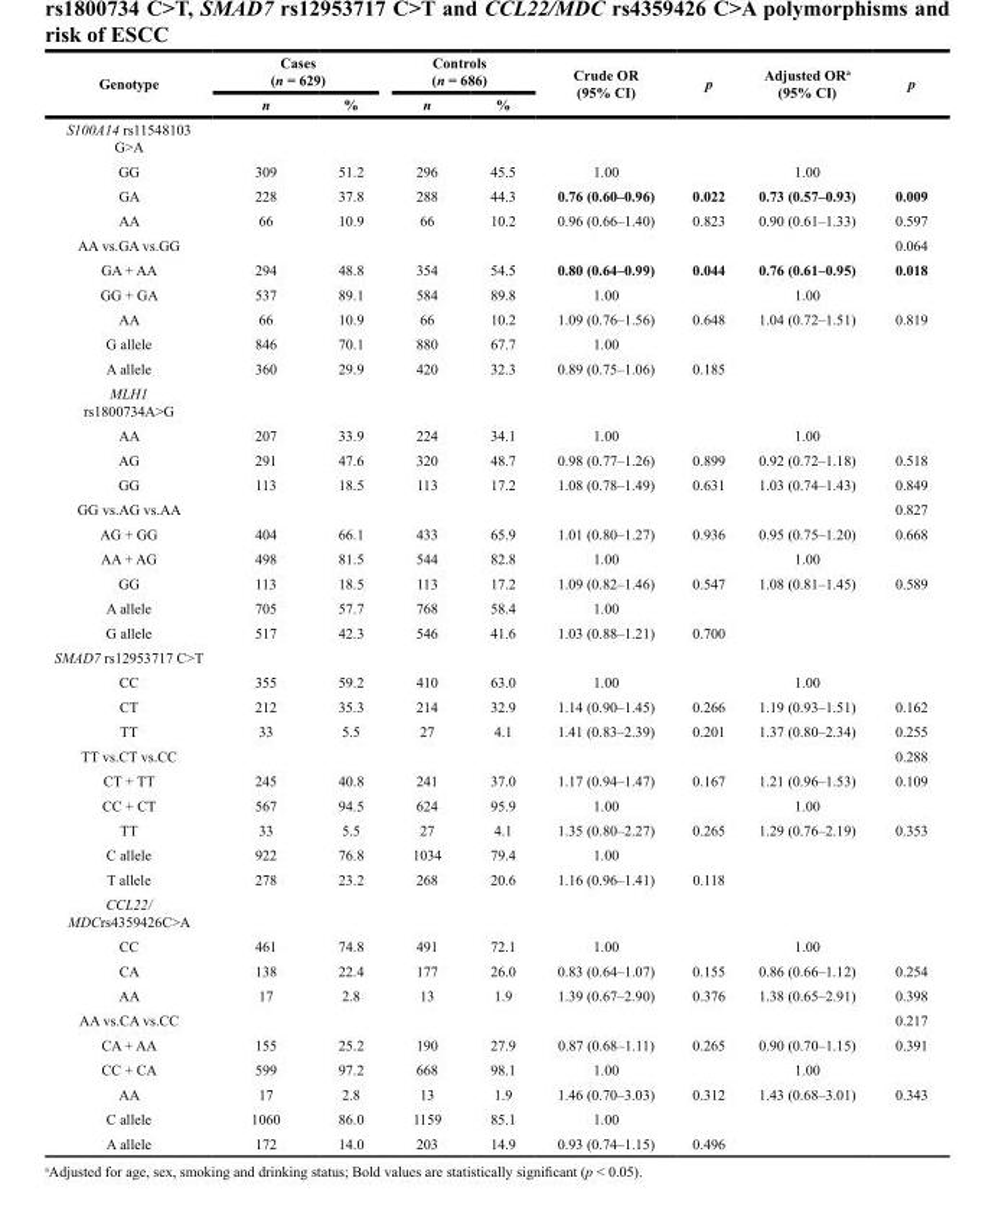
<table><thead><tr><td rowspan="2">Genotype</td><td colspan="2">Cases (n = 629)</td><td colspan="2">Controls (n = 686)</td><td rowspan="2">Crude OR (95% CI)</td><td rowspan="2">p</td><td rowspan="2">Adjusted OR<sup>a</sup> (95% CI)</td><td rowspan="2">p</td></tr><tr><td>n</td><td>%</td><td>n</td><td>%</td></tr></thead><tbody><tr><td colspan="9">S100A14 rs11548103 G&gt;A</td></tr><tr><td>GG</td><td>309</td><td>51.2</td><td>296</td><td>45.5</td><td>1.00</td><td></td><td>1.00</td><td></td></tr><tr><td>GA</td><td>228</td><td>37.8</td><td>288</td><td>44.3</td><td>0.76 (0.60–0.96)</td><td>0.022</td><td>0.73 (0.57–0.93)</td><td>0.009</td></tr><tr><td>AA</td><td>66</td><td>10.9</td><td>66</td><td>10.2</td><td>0.96 (0.66–1.40)</td><td>0.823</td><td>0.90 (0.61–1.33)</td><td>0.597</td></tr><tr><td>AA vs.GA vs.GG</td><td></td><td></td><td></td><td></td><td></td><td></td><td></td><td>0.064</td></tr><tr><td>GA + AA</td><td>294</td><td>48.8</td><td>354</td><td>54.5</td><td>0.80 (0.64–0.99)</td><td>0.044</td><td>0.76 (0.61–0.95)</td><td>0.018</td></tr><tr><td>GG + GA</td><td>537</td><td>89.1</td><td>584</td><td>89.8</td><td>1.00</td><td></td><td>1.00</td><td></td></tr><tr><td>AA</td><td>66</td><td>10.9</td><td>66</td><td>10.2</td><td>1.09 (0.76–1.56)</td><td>0.648</td><td>1.04 (0.72–1.51)</td><td>0.819</td></tr><tr><td>G allele</td><td>846</td><td>70.1</td><td>880</td><td>67.7</td><td>1.00</td><td></td><td></td><td></td></tr><tr><td>A allele</td><td>360</td><td>29.9</td><td>420</td><td>32.3</td><td>0.89 (0.75–1.06)</td><td>0.185</td><td></td><td></td></tr><tr><td colspan="9">MLH1 rs1800734A&gt;G</td></tr><tr><td>AA</td><td>207</td><td>33.9</td><td>224</td><td>34.1</td><td>1.00</td><td></td><td>1.00</td><td></td></tr><tr><td>AG</td><td>291</td><td>47.6</td><td>320</td><td>48.7</td><td>0.98 (0.77–1.26)</td><td>0.899</td><td>0.92 (0.72–1.18)</td><td>0.518</td></tr><tr><td>GG</td><td>113</td><td>18.5</td><td>113</td><td>17.2</td><td>1.08 (0.78–1.49)</td><td>0.631</td><td>1.03 (0.74–1.43)</td><td>0.849</td></tr><tr><td>GG vs.AG vs.AA</td><td></td><td></td><td></td><td></td><td></td><td></td><td></td><td>0.827</td></tr><tr><td>AG + GG</td><td>404</td><td>66.1</td><td>433</td><td>65.9</td><td>1.01 (0.80–1.27)</td><td>0.936</td><td>0.95 (0.75–1.20)</td><td>0.668</td></tr><tr><td>AA + AG</td><td>498</td><td>81.5</td><td>544</td><td>82.8</td><td>1.00</td><td></td><td>1.00</td><td></td></tr><tr><td>GG</td><td>113</td><td>18.5</td><td>113</td><td>17.2</td><td>1.09 (0.82–1.46)</td><td>0.547</td><td>1.08 (0.81–1.45)</td><td>0.589</td></tr><tr><td>A allele</td><td>705</td><td>57.7</td><td>768</td><td>58.4</td><td>1.00</td><td></td><td></td><td></td></tr><tr><td>G allele</td><td>517</td><td>42.3</td><td>546</td><td>41.6</td><td>1.03 (0.88–1.21)</td><td>0.700</td><td></td><td></td></tr><tr><td colspan="9">SMAD7 rs12953717 C&gt;T</td></tr><tr><td>CC</td><td>355</td><td>59.2</td><td>410</td><td>63.0</td><td>1.00</td><td></td><td>1.00</td><td></td></tr><tr><td>CT</td><td>212</td><td>35.3</td><td>214</td><td>32.9</td><td>1.14 (0.90–1.45)</td><td>0.266</td><td>1.19 (0.93–1.51)</td><td>0.162</td></tr><tr><td>TT</td><td>33</td><td>5.5</td><td>27</td><td>4.1</td><td>1.41 (0.83–2.39)</td><td>0.201</td><td>1.37 (0.80–2.34)</td><td>0.255</td></tr><tr><td>TT vs.CT vs.CC</td><td></td><td></td><td></td><td></td><td></td><td></td><td></td><td>0.288</td></tr><tr><td>CT + TT</td><td>245</td><td>40.8</td><td>241</td><td>37.0</td><td>1.17 (0.94–1.47)</td><td>0.167</td><td>1.21 (0.96–1.53)</td><td>0.109</td></tr><tr><td>CC + CT</td><td>567</td><td>94.5</td><td>624</td><td>95.9</td><td>1.00</td><td></td><td>1.00</td><td></td></tr><tr><td>TT</td><td>33</td><td>5.5</td><td>27</td><td>4.1</td><td>1.35 (0.80–2.27)</td><td>0.265</td><td>1.29 (0.76–2.19)</td><td>0.353</td></tr><tr><td>C allele</td><td>922</td><td>76.8</td><td>1034</td><td>79.4</td><td>1.00</td><td></td><td></td><td></td></tr><tr><td>T allele</td><td>278</td><td>23.2</td><td>268</td><td>20.6</td><td>1.16 (0.96–1.41)</td><td>0.118</td><td></td><td></td></tr><tr><td colspan="9">CCL22/ MDCrs4359426C&gt;A</td></tr><tr><td>CC</td><td>461</td><td>74.8</td><td>491</td><td>72.1</td><td>1.00</td><td></td><td>1.00</td><td></td></tr><tr><td>CA</td><td>138</td><td>22.4</td><td>177</td><td>26.0</td><td>0.83 (0.64–1.07)</td><td>0.155</td><td>0.86 (0.66–1.12)</td><td>0.254</td></tr><tr><td>AA</td><td>17</td><td>2.8</td><td>13</td><td>1.9</td><td>1.39 (0.67–2.90)</td><td>0.376</td><td>1.38 (0.65–2.91)</td><td>0.398</td></tr><tr><td>AA vs.CA vs.CC</td><td></td><td></td><td></td><td></td><td></td><td></td><td></td><td>0.217</td></tr><tr><td>CA + AA</td><td>155</td><td>25.2</td><td>190</td><td>27.9</td><td>0.87 (0.68–1.11)</td><td>0.265</td><td>0.90 (0.70–1.15)</td><td>0.391</td></tr><tr><td>CC + CA</td><td>599</td><td>97.2</td><td>668</td><td>98.1</td><td>1.00</td><td></td><td>1.00</td><td></td></tr><tr><td>AA</td><td>17</td><td>2.8</td><td>13</td><td>1.9</td><td>1.46 (0.70–3.03)</td><td>0.312</td><td>1.43 (0.68–3.01)</td><td>0.343</td></tr><tr><td>C allele</td><td>1060</td><td>86.0</td><td>1159</td><td>85.1</td><td>1.00</td><td></td><td></td><td></td></tr><tr><td>A allele</td><td>172</td><td>14.0</td><td>203</td><td>14.9</td><td>0.93 (0.74–1.15)</td><td>0.496</td><td></td><td></td></tr></tbody></table>